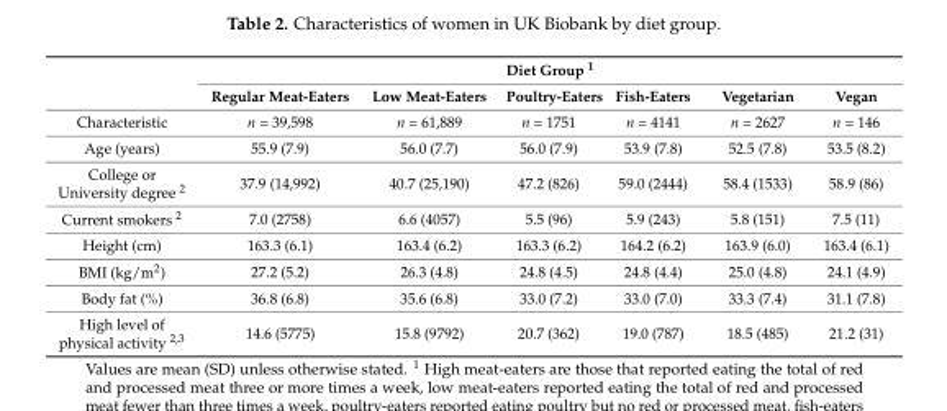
<table><thead><tr><td rowspan="2"></td><td colspan="6">Diet Group <sup>1</sup></td></tr><tr><td>Regular Meat-Eaters</td><td>Low Meat-Eaters</td><td>Poultry-Eaters</td><td>Fish-Eaters</td><td>Vegetarian</td><td>Vegan</td></tr></thead><tbody><tr><td>Characteristic</td><td>n = 39,598</td><td>n = 61,889</td><td>n = 1751</td><td>n = 4141</td><td>n = 2627</td><td>n = 146</td></tr><tr><td>Age (years)</td><td>55.9 (7.9)</td><td>56.0 (7.7)</td><td>56.0 (7.9)</td><td>53.9 (7.8)</td><td>52.5 (7.8)</td><td>53.5 (8.2)</td></tr><tr><td>College or University degree <sup>2</sup></td><td>37.9 (14,992)</td><td>40.7 (25,190)</td><td>47.2 (826)</td><td>59.0 (2444)</td><td>58.4 (1533)</td><td>58.9 (86)</td></tr><tr><td>Current smokers <sup>2</sup></td><td>7.0 (2758)</td><td>6.6 (4057)</td><td>5.5 (96)</td><td>5.9 (243)</td><td>5.8 (151)</td><td>7.5 (11)</td></tr><tr><td>Height (cm)</td><td>163.3 (6.1)</td><td>163.4 (6.2)</td><td>163.3 (6.2)</td><td>164.2 (6.2)</td><td>163.9 (6.0)</td><td>163.4 (6.1)</td></tr><tr><td>BMI (kg/m<sup>2</sup>)</td><td>27.2 (5.2)</td><td>26.3 (4.8)</td><td>24.8 (4.5)</td><td>24.8 (4.4)</td><td>25.0 (4.8)</td><td>24.1 (4.9)</td></tr><tr><td>Body fat (%)</td><td>36.8 (6.8)</td><td>35.6 (6.8)</td><td>33.0 (7.2)</td><td>33.0 (7.0)</td><td>33.3 (7.4)</td><td>31.1 (7.8)</td></tr><tr><td>High level of physical activity <sup>2,3</sup></td><td>14.6 (5775)</td><td>15.8 (9792)</td><td>20.7 (362)</td><td>19.0 (787)</td><td>18.5 (485)</td><td>21.2 (31)</td></tr></tbody></table>